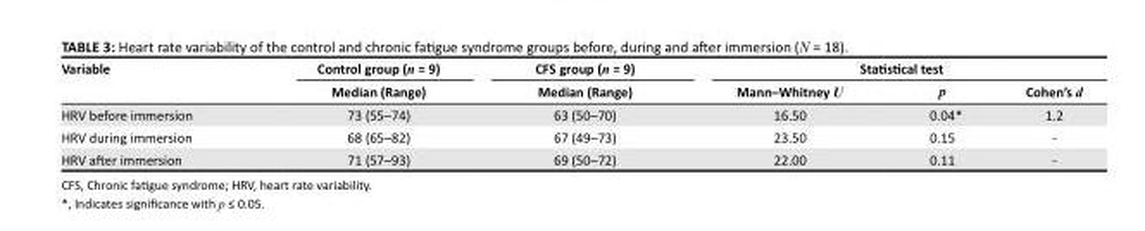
<table><thead><tr><td rowspan="2">Variable</td><td rowspan="2">Control group (n = 9) Median (Range)</td><td rowspan="2">CFS group (n = 9) Median (Range)</td><td colspan="3">Statistical test</td></tr><tr><td>Mann–Whitney U</td><td>p</td><td>Cohen’s d</td></tr></thead><tbody><tr><td>HRV before immersion</td><td>73 (55–74)</td><td>63 (50–70)</td><td>16.50</td><td>0.04*</td><td>1.2</td></tr><tr><td>HRV during immersion</td><td>68 (65–82)</td><td>67 (49–73)</td><td>23.50</td><td>0.15</td><td>-</td></tr><tr><td>HRV after immersion</td><td>71 (57–93)</td><td>69 (50–72)</td><td>22.00</td><td>0.11</td><td>-</td></tr></tbody></table>